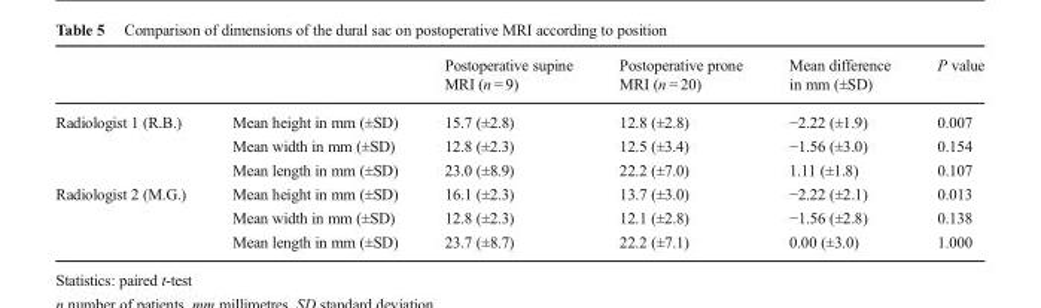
<table><thead><tr><td></td><td></td><td>Postoperative supine MRI (n = 9)</td><td>Postoperative prone MRI (n = 20)</td><td>Mean difference in mm (±SD)</td><td>P value</td></tr></thead><tbody><tr><td rowspan="3">Radiologist 1 (R.B.)</td><td>Mean height in mm (±SD)</td><td>15.7 (±2.8)</td><td>12.8 (±2.8)</td><td>−2.22 (±1.9)</td><td>0.007</td></tr><tr><td>Mean width in mm (±SD)</td><td>12.8 (±2.3)</td><td>12.5 (±3.4)</td><td>−1.56 (±3.0)</td><td>0.154</td></tr><tr><td>Mean length in mm (±SD)</td><td>23.0 (±8.9)</td><td>22.2 (±7.0)</td><td>1.11 (±1.8)</td><td>0.107</td></tr><tr><td rowspan="3">Radiologist 2 (M.G.)</td><td>Mean height in mm (±SD)</td><td>16.1 (±2.3)</td><td>13.7 (±3.0)</td><td>−2.22 (±2.1)</td><td>0.013</td></tr><tr><td>Mean width in mm (±SD)</td><td>12.8 (±2.3)</td><td>12.1 (±2.8)</td><td>−1.56 (±2.8)</td><td>0.138</td></tr><tr><td>Mean length in mm (±SD)</td><td>23.7 (±8.7)</td><td>22.2 (±7.1)</td><td>0.00 (±3.0)</td><td>1.000</td></tr></tbody></table>